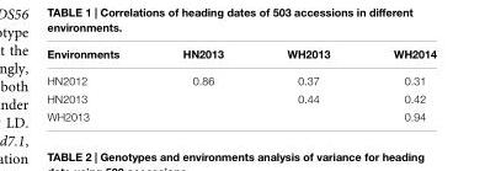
<table><thead><tr><td>Environments</td><td>HN2013</td><td>WH2013</td><td>WH2014</td></tr></thead><tbody><tr><td>HN2012</td><td>0.86</td><td>0.37</td><td>0.31</td></tr><tr><td>HN2013</td><td></td><td>0.44</td><td>0.42</td></tr><tr><td>WH2013</td><td></td><td></td><td>0.94</td></tr></tbody></table>